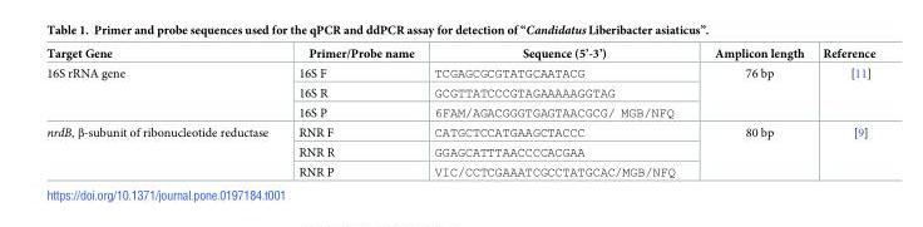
<table><thead><tr><td>Target Gene</td><td>Primer/Probe name</td><td>Sequence (5’-3’)</td><td>Amplicon length</td><td>Reference</td></tr></thead><tbody><tr><td rowspan="3">16S rRNA gene</td><td>16S F</td><td>TCGAGCGCGTATGCAATACG</td><td rowspan="3">76 bp</td><td rowspan="3">[11]</td></tr><tr><td>16S R</td><td>GCGTTATCCCGTAGAAAAAGGTAG</td></tr><tr><td>16S P</td><td>6FAM/AGACGGGTGAGTAACGCG/ MGB/NFQ</td></tr><tr><td rowspan="3">nrdB, β-subunit of ribonucleotide reductase</td><td>RNR F</td><td>CATGCTCCATGAAGCTACCC</td><td rowspan="3">80 bp</td><td rowspan="3">[9]</td></tr><tr><td>RNR R</td><td>GGAGCATTTAACCCCACGAA</td></tr><tr><td>RNR P</td><td>VIC/CCTCGAAATCGCCTATGCAC/MGB/NFQ</td></tr></tbody></table>